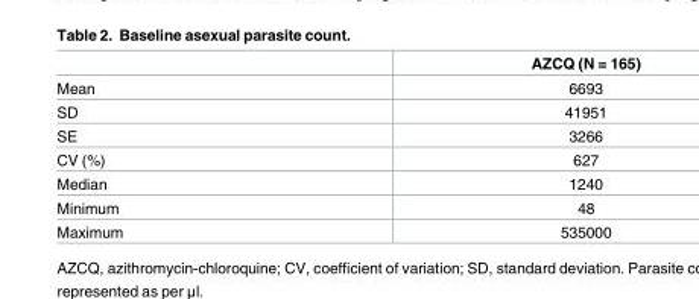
<table><thead><tr><td></td><td>AZCQ (N = 165)</td></tr></thead><tbody><tr><td>Mean</td><td>6693</td></tr><tr><td>SD</td><td>41951</td></tr><tr><td>SE</td><td>3266</td></tr><tr><td>CV (%)</td><td>627</td></tr><tr><td>Median</td><td>1240</td></tr><tr><td>Minimum</td><td>48</td></tr><tr><td>Maximum</td><td>535000</td></tr></tbody></table>